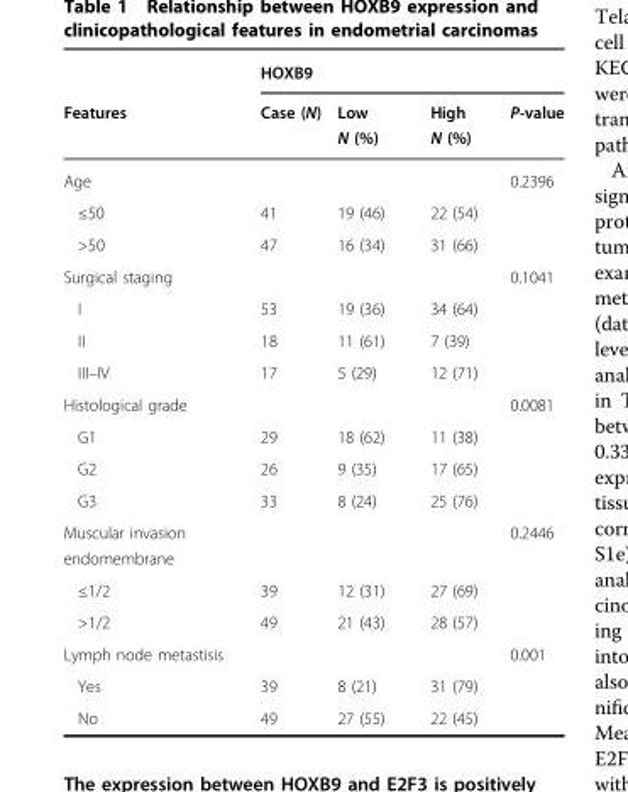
<table><thead><tr><td rowspan="2">Features</td><td colspan="4">HOXB9</td></tr><tr><td>Case (N)</td><td>Low N (%)</td><td>High N (%)</td><td>P-value</td></tr></thead><tbody><tr><td>Age</td><td></td><td></td><td></td><td>0.2396</td></tr><tr><td>≤50</td><td>41</td><td>19 (46)</td><td>22 (54)</td><td></td></tr><tr><td>&gt;50</td><td>47</td><td>16 (34)</td><td>31 (66)</td><td></td></tr><tr><td>Surgical staging</td><td></td><td></td><td></td><td>0.1041</td></tr><tr><td>I</td><td>53</td><td>19 (36)</td><td>34 (64)</td><td></td></tr><tr><td>II</td><td>18</td><td>11 (61)</td><td>7 (39)</td><td></td></tr><tr><td>III–IV</td><td>17</td><td>5 (29)</td><td>12 (71)</td><td></td></tr><tr><td>Histological grade</td><td></td><td></td><td></td><td>0.0081</td></tr><tr><td>G1</td><td>29</td><td>18 (62)</td><td>11 (38)</td><td></td></tr><tr><td>G2</td><td>26</td><td>9 (35)</td><td>17 (65)</td><td></td></tr><tr><td>G3</td><td>33</td><td>8 (24)</td><td>25 (76)</td><td></td></tr><tr><td>Muscular invasion endomembrane</td><td></td><td></td><td></td><td>0.2446</td></tr><tr><td>≤1/2</td><td>39</td><td>12 (31)</td><td>27 (69)</td><td></td></tr><tr><td>&gt;1/2</td><td>49</td><td>21 (43)</td><td>28 (57)</td><td></td></tr><tr><td>Lymph node metastisis</td><td></td><td></td><td></td><td>0.001</td></tr><tr><td>Yes</td><td>39</td><td>8 (21)</td><td>31 (79)</td><td></td></tr><tr><td>No</td><td>49</td><td>27 (55)</td><td>22 (45)</td><td></td></tr></tbody></table>